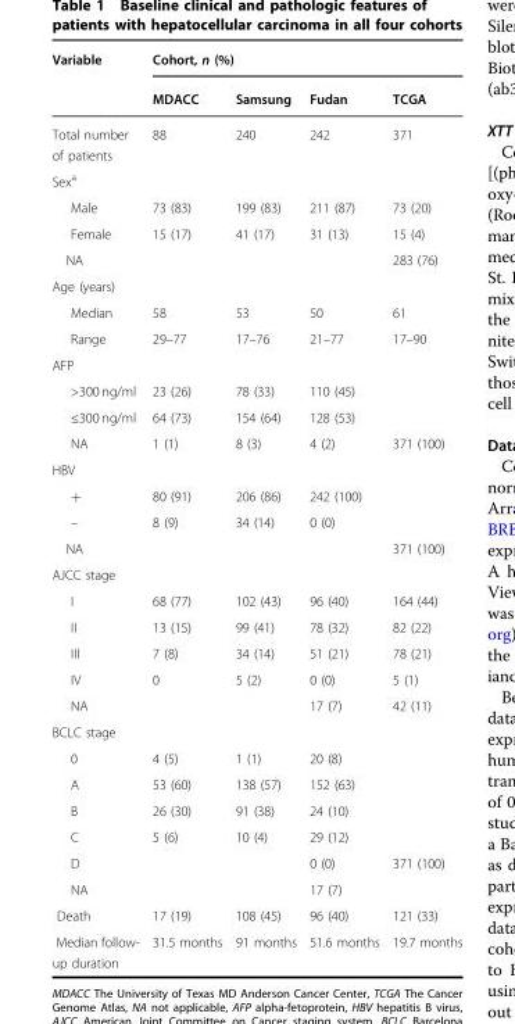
<table><thead><tr><td rowspan="2">Variable</td><td colspan="4">Cohort, n (%)</td></tr><tr><td>MDACC</td><td>Samsung</td><td>Fudan</td><td>TCGA</td></tr></thead><tbody><tr><td>Total number of patients</td><td>88</td><td>240</td><td>242</td><td>371</td></tr><tr><td colspan="5">Sex<sup>a</sup></td></tr><tr><td>Male</td><td>73 (83)</td><td>199 (83)</td><td>211 (87)</td><td>73 (20)</td></tr><tr><td>Female</td><td>15 (17)</td><td>41 (17)</td><td>31 (13)</td><td>15 (4)</td></tr><tr><td>NA</td><td></td><td></td><td></td><td>283 (76)</td></tr><tr><td colspan="5">Age (years)</td></tr><tr><td>Median</td><td>58</td><td>53</td><td>50</td><td>61</td></tr><tr><td>Range</td><td>29–77</td><td>17–76</td><td>21–77</td><td>17–90</td></tr><tr><td colspan="5">AFP</td></tr><tr><td>&gt;300 ng/ml</td><td>23 (26)</td><td>78 (33)</td><td>110 (45)</td><td></td></tr><tr><td>≤300 ng/ml</td><td>64 (73)</td><td>154 (64)</td><td>128 (53)</td><td></td></tr><tr><td>NA</td><td>1 (1)</td><td>8 (3)</td><td>4 (2)</td><td>371 (100)</td></tr><tr><td colspan="5">HBV</td></tr><tr><td>+</td><td>80 (91)</td><td>206 (86)</td><td>242 (100)</td><td></td></tr><tr><td>–</td><td>8 (9)</td><td>34 (14)</td><td>0 (0)</td><td></td></tr><tr><td>NA</td><td></td><td></td><td></td><td>371 (100)</td></tr><tr><td colspan="5">AJCC stage</td></tr><tr><td>I</td><td>68 (77)</td><td>102 (43)</td><td>96 (40)</td><td>164 (44)</td></tr><tr><td>II</td><td>13 (15)</td><td>99 (41)</td><td>78 (32)</td><td>82 (22)</td></tr><tr><td>III</td><td>7 (8)</td><td>34 (14)</td><td>51 (21)</td><td>78 (21)</td></tr><tr><td>IV</td><td>0</td><td>5 (2)</td><td>0 (0)</td><td>5 (1)</td></tr><tr><td>NA</td><td></td><td></td><td>17 (7)</td><td>42 (11)</td></tr><tr><td colspan="5">BCLC stage</td></tr><tr><td>0</td><td>4 (5)</td><td>1 (1)</td><td>20 (8)</td><td></td></tr><tr><td>A</td><td>53 (60)</td><td>138 (57)</td><td>152 (63)</td><td></td></tr><tr><td>B</td><td>26 (30)</td><td>91 (38)</td><td>24 (10)</td><td></td></tr><tr><td>C</td><td>5 (6)</td><td>10 (4)</td><td>29 (12)</td><td></td></tr><tr><td>D</td><td></td><td></td><td>0 (0)</td><td>371 (100)</td></tr><tr><td>NA</td><td></td><td></td><td>17 (7)</td><td></td></tr><tr><td>Death</td><td>17 (19)</td><td>108 (45)</td><td>96 (40)</td><td>121 (33)</td></tr><tr><td>Median follow- up duration</td><td>31.5 months</td><td>91 months</td><td>51.6 months</td><td>19.7 months</td></tr></tbody></table>